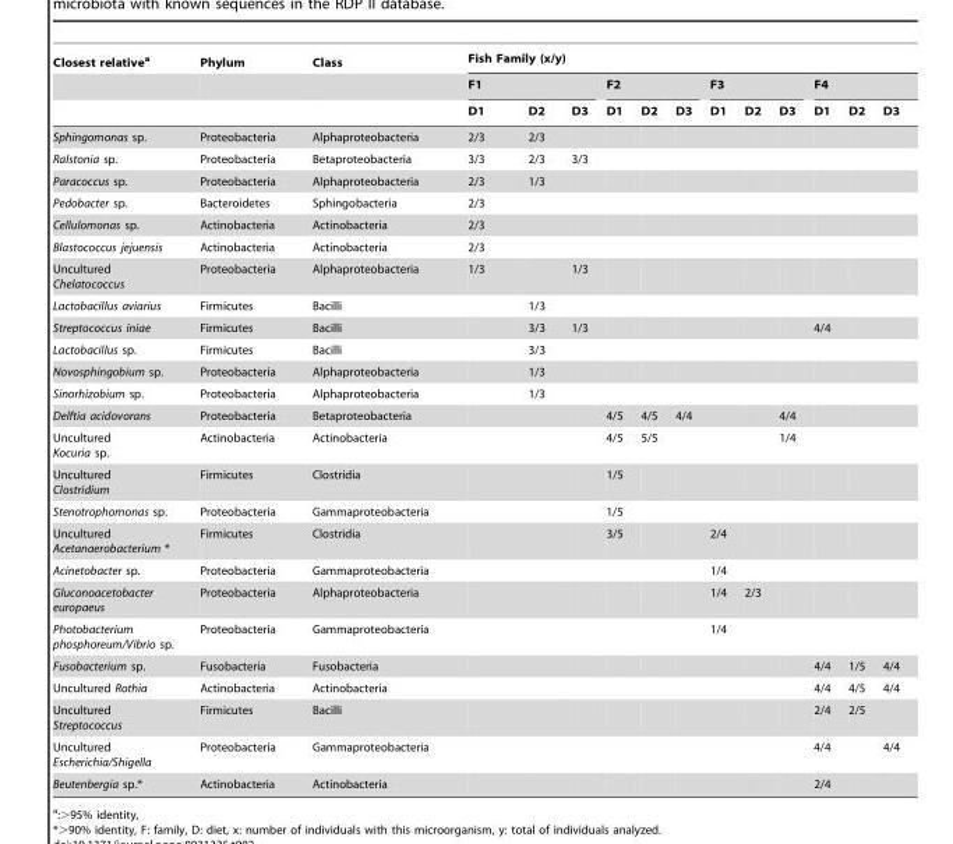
<table><thead><tr><td rowspan="3">Closest relative<sup>a</sup></td><td rowspan="3">Phylum</td><td rowspan="3">Class</td><td colspan="12">Fish Family (x/y)</td></tr><tr><td colspan="3">F1</td><td colspan="3">F2</td><td colspan="3">F3</td><td colspan="3">F4</td></tr><tr><td>D1</td><td>D2</td><td>D3</td><td>D1</td><td>D2</td><td>D3</td><td>D1</td><td>D2</td><td>D3</td><td>D1</td><td>D2</td><td>D3</td></tr></thead><tbody><tr><td>Sphingomonas sp.</td><td>Proteobacteria</td><td>Alphaproteobacteria</td><td>2/3</td><td>2/3</td><td></td><td></td><td></td><td></td><td></td><td></td><td></td><td></td><td></td><td></td></tr><tr><td>Ralstonia sp.</td><td>Proteobacteria</td><td>Betaproteobacteria</td><td>3/3</td><td>2/3</td><td>3/3</td><td></td><td></td><td></td><td></td><td></td><td></td><td></td><td></td><td></td></tr><tr><td>Paracoccus sp.</td><td>Proteobacteria</td><td>Alphaproteobacteria</td><td>2/3</td><td>1/3</td><td></td><td></td><td></td><td></td><td></td><td></td><td></td><td></td><td></td><td></td></tr><tr><td>Pedobacter sp.</td><td>Bacteroidetes</td><td>Sphingobacteria</td><td>2/3</td><td></td><td></td><td></td><td></td><td></td><td></td><td></td><td></td><td></td><td></td><td></td></tr><tr><td>Cellulomonas sp.</td><td>Actinobacteria</td><td>Actinobacteria</td><td>2/3</td><td></td><td></td><td></td><td></td><td></td><td></td><td></td><td></td><td></td><td></td><td></td></tr><tr><td>Blastococcus jejuensis</td><td>Actinobacteria</td><td>Actinobacteria</td><td>2/3</td><td></td><td></td><td></td><td></td><td></td><td></td><td></td><td></td><td></td><td></td><td></td></tr><tr><td>Uncultured Chelatococcus</td><td>Proteobacteria</td><td>Alphaproteobacteria</td><td>1/3</td><td></td><td>1/3</td><td></td><td></td><td></td><td></td><td></td><td></td><td></td><td></td><td></td></tr><tr><td>Lactobacillus aviarius</td><td>Firmicutes</td><td>Bacilli</td><td></td><td>1/3</td><td></td><td></td><td></td><td></td><td></td><td></td><td></td><td></td><td></td><td></td></tr><tr><td>Streptococcus iniae</td><td>Firmicutes</td><td>Bacilli</td><td></td><td>3/3</td><td>1/3</td><td></td><td></td><td></td><td></td><td></td><td></td><td>4/4</td><td></td><td></td></tr><tr><td>Lactobacillus sp.</td><td>Firmicutes</td><td>Bacilli</td><td></td><td>3/3</td><td></td><td></td><td></td><td></td><td></td><td></td><td></td><td></td><td></td><td></td></tr><tr><td>Novosphingobium sp.</td><td>Proteobacteria</td><td>Alphaproteobacteria</td><td></td><td>1/3</td><td></td><td></td><td></td><td></td><td></td><td></td><td></td><td></td><td></td><td></td></tr><tr><td>Sinorhizobium sp.</td><td>Proteobacteria</td><td>Alphaproteobacteria</td><td></td><td>1/3</td><td></td><td></td><td></td><td></td><td></td><td></td><td></td><td></td><td></td><td></td></tr><tr><td>Delftia acidovorans</td><td>Proteobacteria</td><td>Betaproteobacteria</td><td></td><td></td><td></td><td>4/5</td><td>4/5</td><td>4/4</td><td></td><td></td><td>4/4</td><td></td><td></td><td></td></tr><tr><td>Uncultured Kocuria sp.</td><td>Actinobacteria</td><td>Actinobacteria</td><td></td><td></td><td></td><td>4/5</td><td>5/5</td><td></td><td></td><td></td><td>1/4</td><td></td><td></td><td></td></tr><tr><td>Uncultured Clostridium</td><td>Firmicutes</td><td>Clostridia</td><td></td><td></td><td></td><td>1/5</td><td></td><td></td><td></td><td></td><td></td><td></td><td></td><td></td></tr><tr><td>Stenotrophomonas sp.</td><td>Proteobacteria</td><td>Gammaproteobacteria</td><td></td><td></td><td></td><td>1/5</td><td></td><td></td><td></td><td></td><td></td><td></td><td></td><td></td></tr><tr><td>Uncultured Acetanaerobacterium *</td><td>Firmicutes</td><td>Clostridia</td><td></td><td></td><td></td><td>3/5</td><td></td><td></td><td>2/4</td><td></td><td></td><td></td><td></td><td></td></tr><tr><td>Acinetobacter sp.</td><td>Proteobacteria</td><td>Gammaproteobacteria</td><td></td><td></td><td></td><td></td><td></td><td></td><td>1/4</td><td></td><td></td><td></td><td></td><td></td></tr><tr><td>Gluconoacetobacter europaeus</td><td>Proteobacteria</td><td>Alphaproteobacteria</td><td></td><td></td><td></td><td></td><td></td><td></td><td>1/4</td><td>2/3</td><td></td><td></td><td></td><td></td></tr><tr><td>Photobacterium phosphoreum/Vibrio sp.</td><td>Proteobacteria</td><td>Gammaproteobacteria</td><td></td><td></td><td></td><td></td><td></td><td></td><td>1/4</td><td></td><td></td><td></td><td></td><td></td></tr><tr><td>Fusobacterium sp.</td><td>Fusobacteria</td><td>Fusobacteria</td><td></td><td></td><td></td><td></td><td></td><td></td><td></td><td></td><td></td><td>4/4</td><td>1/5</td><td>4/4</td></tr><tr><td>Uncultured Rothia</td><td>Actinobacteria</td><td>Actinobacteria</td><td></td><td></td><td></td><td></td><td></td><td></td><td></td><td></td><td></td><td>4/4</td><td>4/5</td><td>4/4</td></tr><tr><td>Uncultured Streptococcus</td><td>Firmicutes</td><td>Bacilli</td><td></td><td></td><td></td><td></td><td></td><td></td><td></td><td></td><td></td><td>2/4</td><td>2/5</td><td></td></tr><tr><td>Uncultured Escherichia/Shigella</td><td>Proteobacteria</td><td>Gammaproteobacteria</td><td></td><td></td><td></td><td></td><td></td><td></td><td></td><td></td><td></td><td>4/4</td><td></td><td>4/4</td></tr><tr><td>Beutenbergia sp.*</td><td>Actinobacteria</td><td>Actinobacteria</td><td></td><td></td><td></td><td></td><td></td><td></td><td></td><td></td><td></td><td>2/4</td><td></td><td></td></tr></tbody></table>